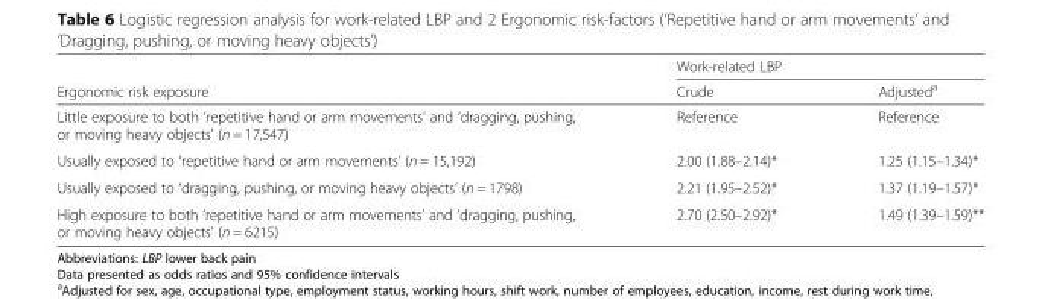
<table><thead><tr><td rowspan="2">Ergonomic risk exposure</td><td colspan="2">Work-related LBP</td></tr><tr><td>Crude</td><td>Adjusted<sup>a</sup></td></tr></thead><tbody><tr><td>Little exposure to both ‘repetitive hand or arm movements’ and ‘dragging, pushing, or moving heavy objects’ (n = 17,547)</td><td>Reference</td><td>Reference</td></tr><tr><td>Usually exposed to ‘repetitive hand or arm movements’ (n = 15,192)</td><td>2.00 (1.88–2.14)*</td><td>1.25 (1.15–1.34)*</td></tr><tr><td>Usually exposed to ‘dragging, pushing, or moving heavy objects’ (n = 1798)</td><td>2.21 (1.95–2.52)*</td><td>1.37 (1.19–1.57)*</td></tr><tr><td>High exposure to both ‘repetitive hand or arm movements’ and ‘dragging, pushing, or moving heavy objects’ (n = 6215)</td><td>2.70 (2.50–2.92)*</td><td>1.49 (1.39–1.59)**</td></tr></tbody></table>